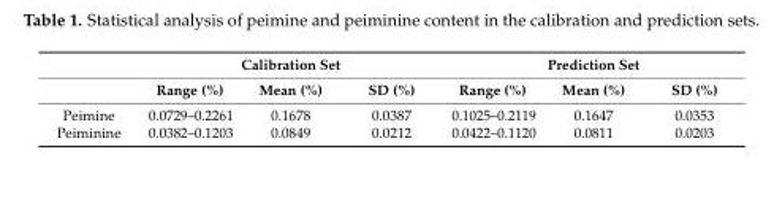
<table><thead><tr><td rowspan="2"></td><td colspan="3">Calibration Set</td><td colspan="3">Prediction Set</td></tr><tr><td>Range (%)</td><td>Mean (%)</td><td>SD (%)</td><td>Range (%)</td><td>Mean (%)</td><td>SD (%)</td></tr></thead><tbody><tr><td>Peimine</td><td>0.0729–0.2261</td><td>0.1678</td><td>0.0387</td><td>0.1025–0.2119</td><td>0.1647</td><td>0.0353</td></tr><tr><td>Peiminine</td><td>0.0382–0.1203</td><td>0.0849</td><td>0.0212</td><td>0.0422–0.1120</td><td>0.0811</td><td>0.0203</td></tr></tbody></table>